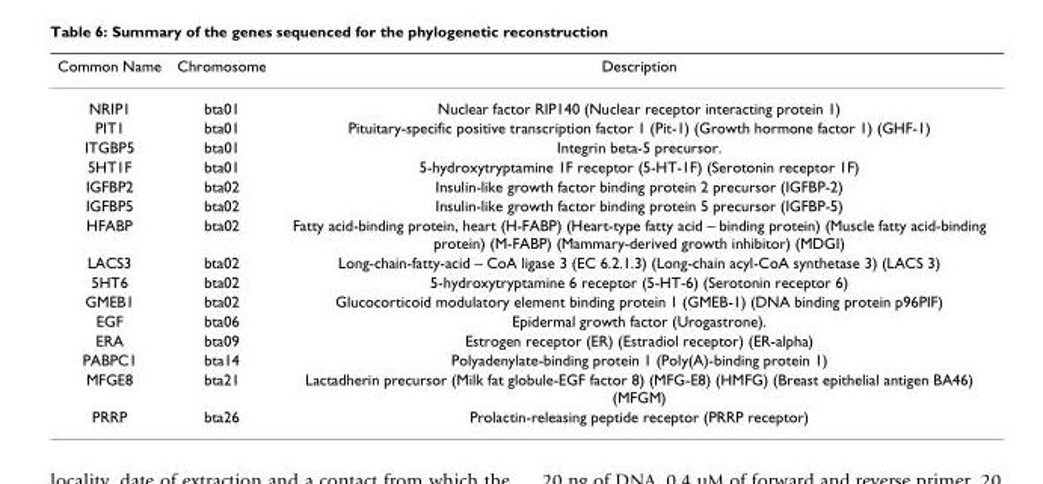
<table><thead><tr><td>Common Name</td><td>Chromosome</td><td>Description</td></tr></thead><tbody><tr><td>NRIP1</td><td>bta01</td><td>Nuclear factor RIP140 (Nuclear receptor interacting protein 1)</td></tr><tr><td>PIT1</td><td>bta01</td><td>Pituitary-specific positive transcription factor 1 (Pit-1) (Growth hormone factor 1) (GHF-1)</td></tr><tr><td>ITGBP5</td><td>bta01</td><td>Integrin beta-5 precursor.</td></tr><tr><td>5HT1F</td><td>bta01</td><td>5-hydroxytryptamine 1F receptor (5-HT-1F) (Serotonin receptor 1F)</td></tr><tr><td>IGFBP2</td><td>bta02</td><td>Insulin-like growth factor binding protein 2 precursor (IGFBP-2)</td></tr><tr><td>IGFBP5</td><td>bta02</td><td>Insulin-like growth factor binding protein 5 precursor (IGFBP-5)</td></tr><tr><td>HFABP</td><td>bta02</td><td>Fatty acid-binding protein, heart (H-FABP) (Heart-type fatty acid – binding protein) (Muscle fatty acid-binding protein) (M-FABP) (Mammary-derived growth inhibitor) (MDGI)</td></tr><tr><td>LACS3</td><td>bta02</td><td>Long-chain-fatty-acid – CoA ligase 3 (EC 6.2.1.3) (Long-chain acyl-CoA synthetase 3) (LACS 3)</td></tr><tr><td>5HT6</td><td>bta02</td><td>5-hydroxytryptamine 6 receptor (5-HT-6) (Serotonin receptor 6)</td></tr><tr><td>GMEB1</td><td>bta02</td><td>Glucocorticoid modulatory element binding protein 1 (GMEB-1) (DNA binding protein p96PIF)</td></tr><tr><td>EGF</td><td>bta06</td><td>Epidermal growth factor (Urogastrone).</td></tr><tr><td>ERA</td><td>bta09</td><td>Estrogen receptor (ER) (Estradiol receptor) (ER-alpha)</td></tr><tr><td>PABPC1</td><td>bta14</td><td>Polyadenylate-binding protein 1 (Poly(A)-binding protein 1)</td></tr><tr><td>MFGE8</td><td>bta21</td><td>Lactadherin precursor (Milk fat globule-EGF factor 8) (MFG-E8) (HMFG) (Breast epithelial antigen BA46) (MFGM)</td></tr><tr><td>PRRP</td><td>bta26</td><td>Prolactin-releasing peptide receptor (PRRP receptor)</td></tr></tbody></table>